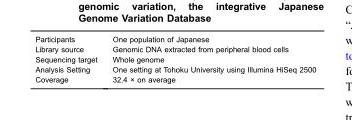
<table><tbody><tr><td>Participants</td><td>One population of Japanese</td></tr><tr><td>Library source</td><td>Genomic DNA extracted from peripheral blood cells</td></tr><tr><td>Sequencing target</td><td>Whole genome</td></tr><tr><td>Analysis Setting</td><td>One setting at Tohoku University using Illumina HiSeq 2500</td></tr><tr><td>Coverage</td><td>32.4 × on average</td></tr></tbody></table>